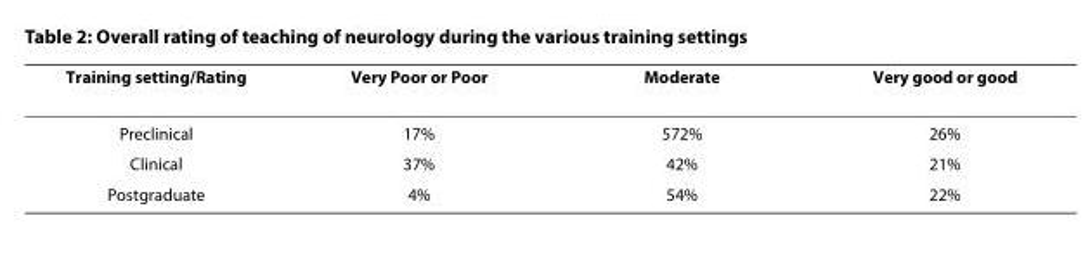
<table><thead><tr><td>Training setting/Rating</td><td>Very Poor or Poor</td><td>Moderate</td><td>Very good or good</td></tr></thead><tbody><tr><td>Preclinical</td><td>17%</td><td>572%</td><td>26%</td></tr><tr><td>Clinical</td><td>37%</td><td>42%</td><td>21%</td></tr><tr><td>Postgraduate</td><td>4%</td><td>54%</td><td>22%</td></tr></tbody></table>